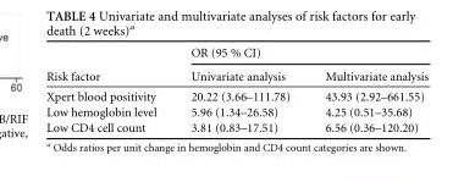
<table><thead><tr><td rowspan="2">Risk factor</td><td colspan="2">OR (95 % CI)</td></tr><tr><td>Univariate analysis</td><td>Multivariate analysis</td></tr></thead><tbody><tr><td>Xpert blood positivity</td><td>20.22 (3.66–111.78)</td><td>43.93 (2.92–661.55)</td></tr><tr><td>Low hemoglobin level</td><td>5.96 (1.34–26.58)</td><td>4.25 (0.51–35.68)</td></tr><tr><td>Low CD4 cell count</td><td>3.81 (0.83–17.51)</td><td>6.56 (0.36–120.20)</td></tr></tbody></table>